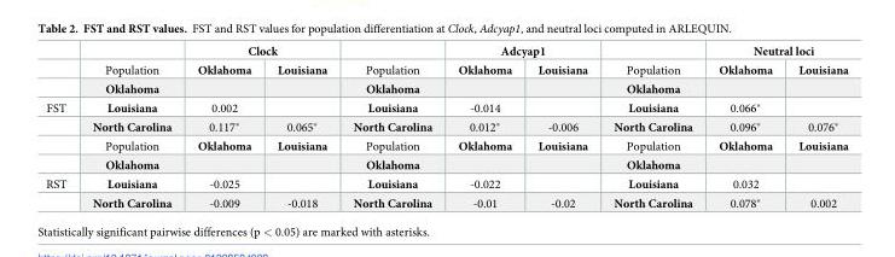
<table><thead><tr><td rowspan="2"></td><td rowspan="2">Population</td><td colspan="2">Clock</td><td rowspan="2">Population</td><td colspan="2">Adcyap1</td><td rowspan="2">Population</td><td colspan="2">Neutral loci</td></tr><tr><td>Oklahoma</td><td>Louisiana</td><td>Oklahoma</td><td>Louisiana</td><td>Oklahoma</td><td>Louisiana</td></tr></thead><tbody><tr><td></td><td>Oklahoma</td><td></td><td></td><td>Oklahoma</td><td></td><td></td><td>Oklahoma</td><td></td><td></td></tr><tr><td rowspan="4">FST</td><td>Louisiana</td><td>0.002</td><td></td><td>Louisiana</td><td>-0.014</td><td></td><td>Louisiana</td><td>0.066*</td><td></td></tr><tr><td>North Carolina</td><td>0.117*</td><td>0.065*</td><td>North Carolina</td><td>0.012*</td><td>-0.006</td><td>North Carolina</td><td>0.096*</td><td>0.076*</td></tr><tr><td>Population</td><td>Oklahoma</td><td>Louisiana</td><td>Population</td><td>Oklahoma</td><td>Louisiana</td><td>Population</td><td>Oklahoma</td><td>Louisiana</td></tr><tr><td>Oklahoma</td><td></td><td></td><td>Oklahoma</td><td></td><td></td><td>Oklahoma</td><td></td><td></td></tr><tr><td rowspan="2">RST</td><td>Louisiana</td><td>-0.025</td><td></td><td>Louisiana</td><td>-0.022</td><td></td><td>Louisiana</td><td>0.032</td><td></td></tr><tr><td>North Carolina</td><td>-0.009</td><td>-0.018</td><td>North Carolina</td><td>-0.01</td><td>-0.02</td><td>North Carolina</td><td>0.078*</td><td>0.002</td></tr></tbody></table>